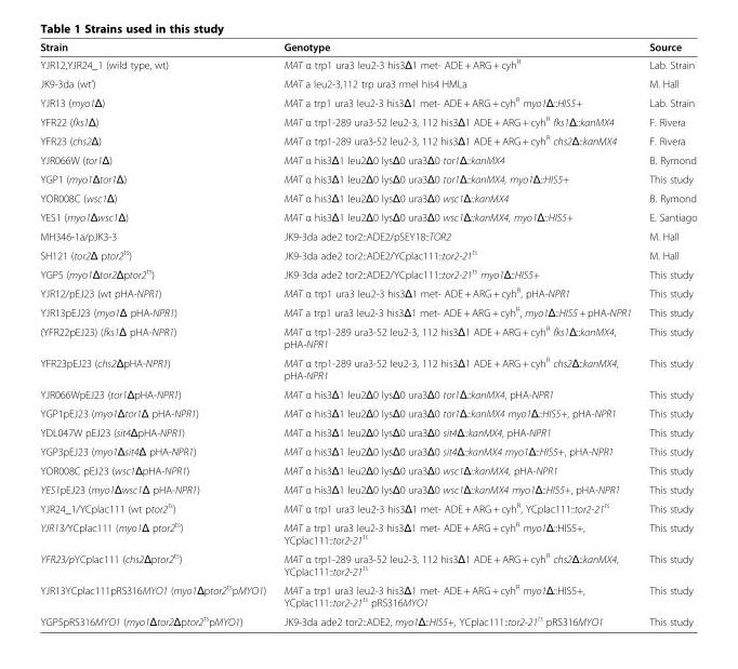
<table><thead><tr><td>Strain</td><td>Genotype</td><td>Source</td></tr></thead><tbody><tr><td>YJR12,YJR24_1 (wild type, wt)</td><td>MAT α trp1 ura3 leu2-3 his3Δ1 met- ADE + ARG + cyh<sup>R</sup></td><td>Lab. Strain</td></tr><tr><td>JK9-3da (wt’)</td><td>MAT a leu2-3,112 trp ura3 rmel his4 HMLa</td><td>M. Hall</td></tr><tr><td>YJR13 (myo1Δ)</td><td>MAT a trp1 ura3 leu2-3 his3Δ1 met- ADE + ARG + cyh<sup>R</sup> myo1Δ::HIS5+</td><td>Lab. Strain</td></tr><tr><td>YFR22 (fks1Δ)</td><td>MAT α trp1-289 ura3-52 leu2-3, 112 his3Δ1 ADE + ARG + cyh<sup>R</sup> fks1Δ::kanMX4</td><td>F. Rivera</td></tr><tr><td>YFR23 (chs2Δ)</td><td>MAT α trp1-289 ura3-52 leu2-3, 112 his3Δ1 ADE + ARG + cyh<sup>R</sup> chs2Δ::kanMX4</td><td>F. Rivera</td></tr><tr><td>YJR066W (tor1Δ)</td><td>MAT α his3Δ1 leu2Δ0 lysΔ0 ura3Δ0 tor1Δ::kanMX4</td><td>B. Rymond</td></tr><tr><td>YGP1 (myo1Δtor1Δ)</td><td>MAT α his3Δ1 leu2Δ0 lysΔ0 ura3Δ0 tor1Δ::kanMX4, myo1Δ::HIS5+</td><td>This study</td></tr><tr><td>YOR008C (wsc1Δ)</td><td>MAT α his3Δ1 leu2Δ0 lysΔ0 ura3Δ0 wsc1Δ::kanMX4</td><td>B. Rymond</td></tr><tr><td>YES1 (myo1Δwsc1Δ)</td><td>MAT α his3Δ1 leu2Δ0 lysΔ0 ura3Δ0 wsc1Δ::kanMX4, myo1Δ::HIS5+</td><td>E. Santiago</td></tr><tr><td>MH346-1a/pJK3-3</td><td>JK9-3da ade2 tor2::ADE2/pSEY18::TOR2</td><td>M. Hall</td></tr><tr><td>SH121 (tor2Δ ptor2<sup>ts</sup>)</td><td>JK9-3da ade2 tor2::ADE2/YCplac111::tor2-21<sup>ts</sup></td><td>M. Hall</td></tr><tr><td>YGP5 (myo1Δtor2Δptor2<sup>ts</sup>)</td><td>JK9-3da ade2 tor2::ADE2/YCplac111::tor2-21<sup>ts</sup> myo1Δ::HIS5+</td><td>This study</td></tr><tr><td>YJR12/pEJ23 (wt pHA-NPR1)</td><td>MAT α trp1 ura3 leu2-3 his3Δ1 met- ADE + ARG + cyh<sup>R</sup>, pHA-NPR1</td><td>This study</td></tr><tr><td>YJR13pEJ23 (myo1Δ pHA-NPR1)</td><td>MAT a trp1 ura3 leu2-3 his3Δ1 met- ADE + ARG + cyh<sup>R</sup>, myo1Δ::HIS5 + pHA-NPR1</td><td>This study</td></tr><tr><td>(YFR22pEJ23) (fks1Δ pHA-NPR1)</td><td>MAT α trp1-289 ura3-52 leu2-3, 112 his3Δ1 ADE + ARG + cyh<sup>R</sup> fks1Δ::kanMX4, pHA-NPR1</td><td>This study</td></tr><tr><td>YFR23pEJ23 (chs2ΔpHA-NPR1)</td><td>MAT α trp1-289 ura3-52 leu2-3, 112 his3Δ1 ADE + ARG + cyh<sup>R</sup> chs2Δ::kanMX4, pHA-NPR1</td><td>This study</td></tr><tr><td>YJR066WpEJ23 (tor1ΔpHA-NPR1)</td><td>MAT α his3Δ1 leu2Δ0 lysΔ0 ura3Δ0 tor1Δ::kanMX4, pHA-NPR1</td><td>This study</td></tr><tr><td>YGP1pEJ23 (myo1Δtor1Δ pHA-NPR1)</td><td>MAT α his3Δ1 leu2Δ0 lysΔ0 ura3Δ0 tor1Δ::kanMX4 myo1Δ::HIS5+, pHA-NPR1</td><td>This study</td></tr><tr><td>YDL047W pEJ23 (sit4ΔpHA-NPR1)</td><td>MAT α his3Δ1 leu2Δ0 lysΔ0 ura3Δ0 sit4Δ::kanMX4, pHA-NPR1</td><td>This study</td></tr><tr><td>YGP3pEJ23 (myo1Δsit4Δ pHA-NPR1)</td><td>MAT α his3Δ1 leu2Δ0 lysΔ0 ura3Δ0 sit4Δ::kanMX4 myo1Δ::HIS5+, pHA-NPR1</td><td>This study</td></tr><tr><td>YOR008C pEJ23 (wsc1ΔpHA-NPR1)</td><td>MAT α his3Δ1 leu2Δ0 lysΔ0 ura3Δ0 wsc1Δ::kanMX4, pHA-NPR1</td><td>This study</td></tr><tr><td>YES1pEJ23 (myo1Δwsc1Δ pHA-NPR1)</td><td>MAT α his3Δ1 leu2Δ0 lysΔ0 ura3Δ0 wsc1Δ::kanMX4 myo1Δ::HIS5+, pHA-NPR1</td><td>This study</td></tr><tr><td>YJR24_1/YCplac111 (wt ptor2<sup>ts</sup>)</td><td>MAT α trp1 ura3 leu2-3 his3Δ1 met- ADE + ARG + cyh<sup>R</sup>, YCplac111::tor2-21<sup>ts</sup></td><td>This study</td></tr><tr><td>YJR13/YCplac111 (myo1Δ ptor2<sup>ts</sup>)</td><td>MAT a trp1 ura3 leu2-3 his3Δ1 met- ADE + ARG + cyh<sup>R</sup> myo1Δ::HIS5+, YCplac111::tor2-21<sup>ts</sup></td><td>This study</td></tr><tr><td>YFR23/pYCplac111 (chs2Δptor2<sup>ts</sup>)</td><td>MAT α trp1-289 ura3-52 leu2-3, 112 his3Δ1 ADE + ARG + cyh<sup>R</sup> chs2Δ::kanMX4, YCplac111::tor2-21<sup>ts</sup></td><td>This study</td></tr><tr><td>YJR13YCplac111pRS316MYO1 (myo1Δptor2<sup>ts</sup>pMYO1)</td><td>MAT a trp1 ura3 leu2-3 his3Δ1 met- ADE + ARG + cyh<sup>R</sup> myo1Δ::HIS5+, YCplac111::tor2-21<sup>ts</sup> pRS316MYO1</td><td>This study</td></tr><tr><td>YGP5pRS316MYO1 (myo1Δtor2Δptor2<sup>ts</sup>pMYO1)</td><td>JK9-3da ade2 tor2::ADE2, myo1Δ::HIS5+, YCplac111::tor2-21<sup>ts</sup> pRS316MYO1</td><td>This study</td></tr></tbody></table>